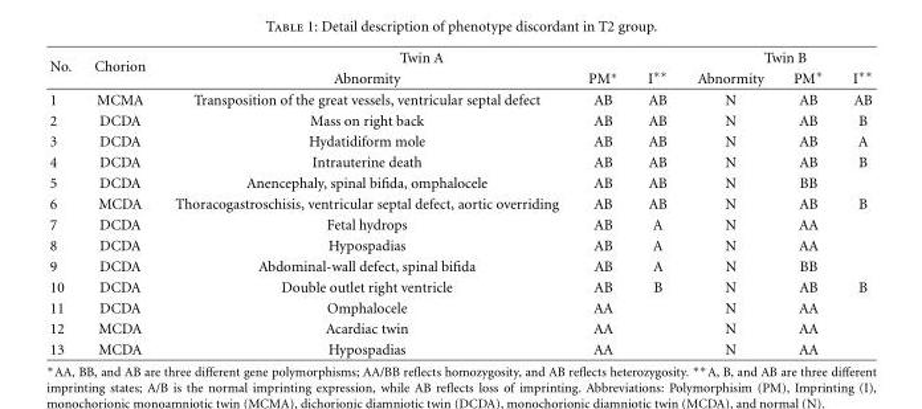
<table><thead><tr><td rowspan="2">No.</td><td rowspan="2">Chorion</td><td colspan="3">Twin A</td><td colspan="3">Twin B</td></tr><tr><td>Abnormity</td><td>PM∗</td><td>I∗∗</td><td>Abnormity</td><td>PM∗</td><td>I∗∗</td></tr></thead><tbody><tr><td>1</td><td>MCMA</td><td>Transposition of the great vessels, ventricular septal defect</td><td>AB</td><td>AB</td><td>N</td><td>AB</td><td>AB</td></tr><tr><td>2</td><td>DCDA</td><td>Mass on right back</td><td>AB</td><td>AB</td><td>N</td><td>AB</td><td>B</td></tr><tr><td>3</td><td>DCDA</td><td>Hydatidiform mole</td><td>AB</td><td>AB</td><td>N</td><td>AB</td><td>A</td></tr><tr><td>4</td><td>DCDA</td><td>Intrauterine death</td><td>AB</td><td>AB</td><td>N</td><td>AB</td><td>B</td></tr><tr><td>5</td><td>DCDA</td><td>Anencephaly, spinal bifida, omphalocele</td><td>AB</td><td>AB</td><td>N</td><td>BB</td><td></td></tr><tr><td>6</td><td>MCDA</td><td>Thoracogastroschisis, ventricular septal defect, aortic overriding</td><td>AB</td><td>AB</td><td>N</td><td>AB</td><td>B</td></tr><tr><td>7</td><td>DCDA</td><td>Fetal hydrops</td><td>AB</td><td>A</td><td>N</td><td>AA</td><td></td></tr><tr><td>8</td><td>DCDA</td><td>Hypospadias</td><td>AB</td><td>A</td><td>N</td><td>AA</td><td></td></tr><tr><td>9</td><td>DCDA</td><td>Abdominal-wall defect, spinal bifida</td><td>AB</td><td>A</td><td>N</td><td>BB</td><td></td></tr><tr><td>10</td><td>DCDA</td><td>Double outlet right ventricle</td><td>AB</td><td>B</td><td>N</td><td>AB</td><td>B</td></tr><tr><td>11</td><td>DCDA</td><td>Omphalocele</td><td>AA</td><td></td><td>N</td><td>AA</td><td></td></tr><tr><td>12</td><td>MCDA</td><td>Acardiac twin</td><td>AA</td><td></td><td>N</td><td>AA</td><td></td></tr><tr><td>13</td><td>MCDA</td><td>Hypospadias</td><td>AA</td><td></td><td>N</td><td>AA</td><td></td></tr></tbody></table>